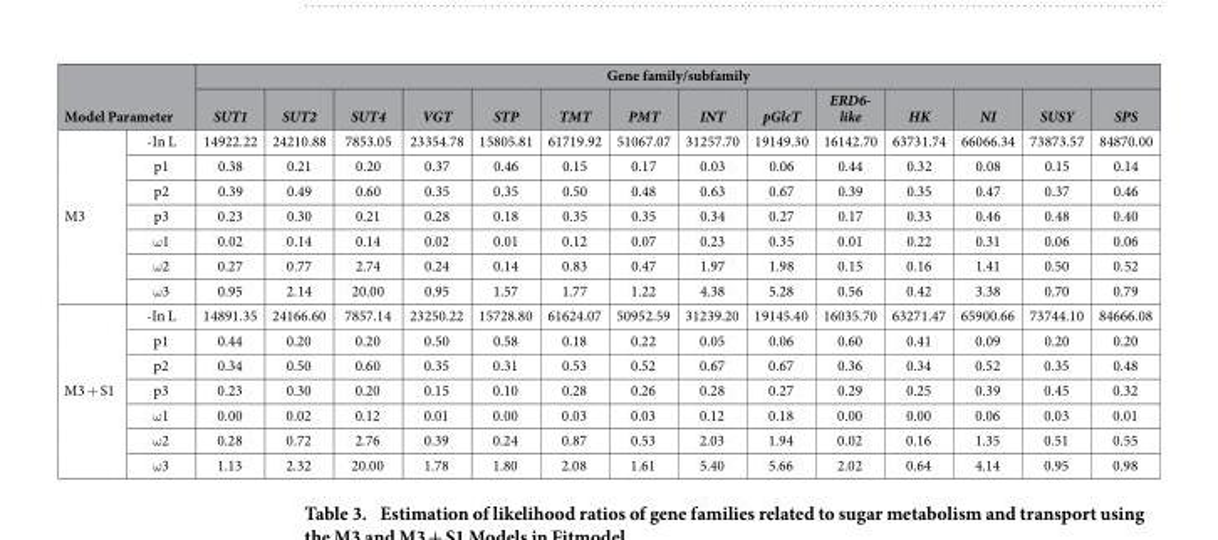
<table><thead><tr><td></td><td></td><td colspan="14">Gene family/subfamily</td></tr><tr><td colspan="2">Model Parameter</td><td>SUT1</td><td>SUT2</td><td>SUT4</td><td>VGT</td><td>STP</td><td>TMT</td><td>PMT</td><td>INT</td><td>pGlcT</td><td>ERD6- like</td><td>HK</td><td>NI</td><td>SUSY</td><td>SPS</td></tr></thead><tbody><tr><td rowspan="7">M3</td><td>-In L</td><td>14922.22</td><td>24210.88</td><td>7853.05</td><td>23354.78</td><td>15805.81</td><td>61719.92</td><td>51067.07</td><td>31257.70</td><td>19149.30</td><td>16142.70</td><td>63731.74</td><td>66066.34</td><td>73873.57</td><td>84870.00</td></tr><tr><td>p1</td><td>0.38</td><td>0.21</td><td>0.20</td><td>0.37</td><td>0.46</td><td>0.15</td><td>0.17</td><td>0.03</td><td>0.06</td><td>0.44</td><td>0.32</td><td>0.08</td><td>0.15</td><td>0.14</td></tr><tr><td>p2</td><td>0.39</td><td>0.49</td><td>0.60</td><td>0.35</td><td>0.35</td><td>0.50</td><td>0.48</td><td>0.63</td><td>0.67</td><td>0.39</td><td>0.35</td><td>0.47</td><td>0.37</td><td>0.46</td></tr><tr><td>p3</td><td>0.23</td><td>0.30</td><td>0.21</td><td>0.28</td><td>0.18</td><td>0.35</td><td>0.35</td><td>0.34</td><td>0.27</td><td>0.17</td><td>0.33</td><td>0.46</td><td>0.48</td><td>0.40</td></tr><tr><td>ω 1</td><td>0.02</td><td>0.14</td><td>0.14</td><td>0.02</td><td>0.01</td><td>0.12</td><td>0.07</td><td>0.23</td><td>0.35</td><td>0.01</td><td>0.22</td><td>0.31</td><td>0.06</td><td>0.06</td></tr><tr><td>ω 2</td><td>0.27</td><td>0.77</td><td>2.74</td><td>0.24</td><td>0.14</td><td>0.83</td><td>0.47</td><td>1.97</td><td>1.98</td><td>0.15</td><td>0.16</td><td>1.41</td><td>0.50</td><td>0.52</td></tr><tr><td>ω 3</td><td>0.95</td><td>2.14</td><td>20.00</td><td>0.95</td><td>1.57</td><td>1.77</td><td>1.22</td><td>4.38</td><td>5.28</td><td>0.56</td><td>0.42</td><td>3.38</td><td>0.70</td><td>0.79</td></tr><tr><td rowspan="7">M3 + S1</td><td>-In L</td><td>14891.35</td><td>24166.60</td><td>7857.14</td><td>23250.22</td><td>15728.80</td><td>61624.07</td><td>50952.59</td><td>31239.20</td><td>19145.40</td><td>16035.70</td><td>63271.47</td><td>65900.66</td><td>73744.10</td><td>84666.08</td></tr><tr><td>p1</td><td>0.44</td><td>0.20</td><td>0.20</td><td>0.50</td><td>0.58</td><td>0.18</td><td>0.22</td><td>0.05</td><td>0.06</td><td>0.60</td><td>0.41</td><td>0.09</td><td>0.20</td><td>0.20</td></tr><tr><td>p2</td><td>0.34</td><td>0.50</td><td>0.60</td><td>0.35</td><td>0.31</td><td>0.53</td><td>0.52</td><td>0.67</td><td>0.67</td><td>0.36</td><td>0.34</td><td>0.52</td><td>0.35</td><td>0.48</td></tr><tr><td>p3</td><td>0.23</td><td>0.30</td><td>0.20</td><td>0.15</td><td>0.10</td><td>0.28</td><td>0.26</td><td>0.28</td><td>0.27</td><td>0.29</td><td>0.25</td><td>0.39</td><td>0.45</td><td>0.32</td></tr><tr><td>ω 1</td><td>0.00</td><td>0.02</td><td>0.12</td><td>0.01</td><td>0.00</td><td>0.03</td><td>0.03</td><td>0.12</td><td>0.18</td><td>0.00</td><td>0.00</td><td>0.06</td><td>0.03</td><td>0.01</td></tr><tr><td>ω 2</td><td>0.28</td><td>0.72</td><td>2.76</td><td>0.39</td><td>0.24</td><td>0.87</td><td>0.53</td><td>2.03</td><td>1.94</td><td>0.02</td><td>0.16</td><td>1.35</td><td>0.51</td><td>0.55</td></tr><tr><td>ω 3</td><td>1.13</td><td>2.32</td><td>20.00</td><td>1.78</td><td>1.80</td><td>2.08</td><td>1.61</td><td>5.40</td><td>5.66</td><td>2.02</td><td>0.64</td><td>4.14</td><td>0.95</td><td>0.98</td></tr></tbody></table>